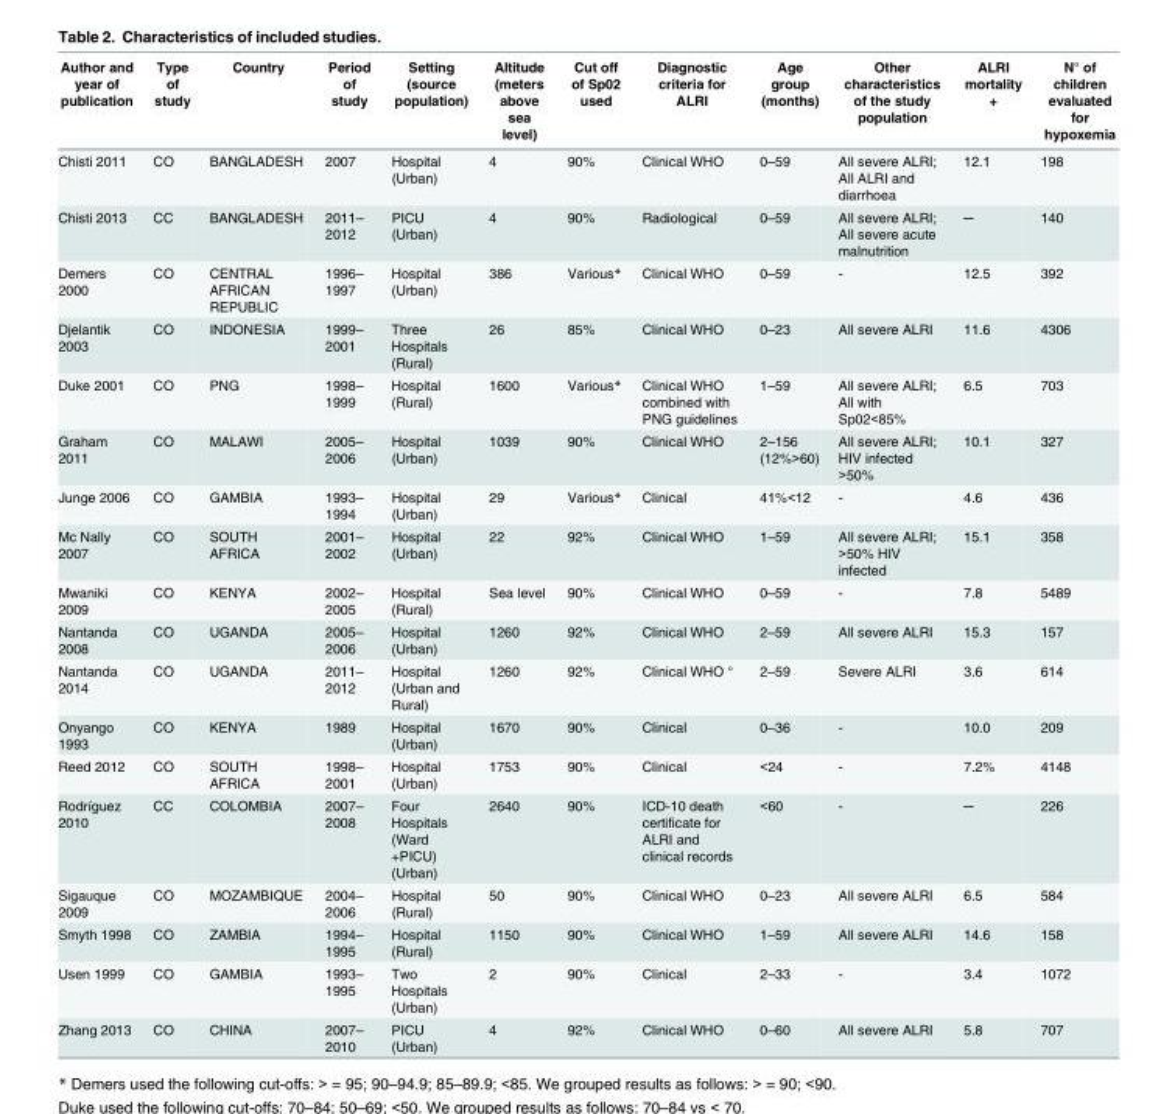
<table><thead><tr><td>Author and year of publication</td><td>Type of study</td><td>Country</td><td>Period of study</td><td>Setting (source population)</td><td>Altitude (meters above sea level)</td><td>Cut off of Sp02 used</td><td>Diagnostic criteria for ALRI</td><td>Age group (months)</td><td>Other characteristics of the study population</td><td>ALRI mortality +</td><td>N° of children evaluated for hypoxemia</td></tr></thead><tbody><tr><td>Chisti 2011</td><td>CO</td><td>BANGLADESH</td><td>2007</td><td>Hospital (Urban)</td><td>4</td><td>90%</td><td>Clinical WHO</td><td>0–59</td><td>All severe ALRI; All ALRI and diarrhoea</td><td>12.1</td><td>198</td></tr><tr><td>Chisti 2013</td><td>CC</td><td>BANGLADESH</td><td>2011– 2012</td><td>PICU (Urban)</td><td>4</td><td>90%</td><td>Radiological</td><td>0–59</td><td>All severe ALRI; All severe acute malnutrition</td><td>─</td><td>140</td></tr><tr><td>Demers 2000</td><td>CO</td><td>CENTRAL AFRICAN REPUBLIC</td><td>1996– 1997</td><td>Hospital (Urban)</td><td>386</td><td>Various*</td><td>Clinical WHO</td><td>0–59</td><td>-</td><td>12.5</td><td>392</td></tr><tr><td>Djelantik 2003</td><td>CO</td><td>INDONESIA</td><td>1999– 2001</td><td>Three Hospitals (Rural)</td><td>26</td><td>85%</td><td>Clinical WHO</td><td>0–23</td><td>All severe ALRI</td><td>11.6</td><td>4306</td></tr><tr><td>Duke 2001</td><td>CO</td><td>PNG</td><td>1998– 1999</td><td>Hospital (Rural)</td><td>1600</td><td>Various*</td><td>Clinical WHO combined with PNG guidelines</td><td>1–59</td><td>All severe ALRI; All with Sp02&lt;85%</td><td>6.5</td><td>703</td></tr><tr><td>Graham 2011</td><td>CO</td><td>MALAWI</td><td>2005– 2006</td><td>Hospital (Urban)</td><td>1039</td><td>90%</td><td>Clinical WHO</td><td>2–156 (12%&gt;60)</td><td>All severe ALRI; HIV infected &gt;50%</td><td>10.1</td><td>327</td></tr><tr><td>Junge 2006</td><td>CO</td><td>GAMBIA</td><td>1993– 1994</td><td>Hospital (Urban)</td><td>29</td><td>Various*</td><td>Clinical</td><td>41%&lt;12</td><td>-</td><td>4.6</td><td>436</td></tr><tr><td>Mc Nally 2007</td><td>CO</td><td>SOUTH AFRICA</td><td>2001– 2002</td><td>Hospital (Urban)</td><td>22</td><td>92%</td><td>Clinical WHO</td><td>1–59</td><td>All severe ALRI; &gt;50% HIV infected</td><td>15.1</td><td>358</td></tr><tr><td>Mwaniki 2009</td><td>CO</td><td>KENYA</td><td>2002– 2005</td><td>Hospital (Rural)</td><td>Sea level</td><td>90%</td><td>Clinical WHO</td><td>0–59</td><td>-</td><td>7.8</td><td>5489</td></tr><tr><td>Nantanda 2008</td><td>CO</td><td>UGANDA</td><td>2005– 2006</td><td>Hospital (Urban)</td><td>1260</td><td>92%</td><td>Clinical WHO</td><td>2–59</td><td>All severe ALRI</td><td>15.3</td><td>157</td></tr><tr><td>Nantanda 2014</td><td>CO</td><td>UGANDA</td><td>2011– 2012</td><td>Hospital (Urban and Rural)</td><td>1260</td><td>92%</td><td>Clinical WHO °</td><td>2–59</td><td>Severe ALRI</td><td>3.6</td><td>614</td></tr><tr><td>Onyango 1993</td><td>CO</td><td>KENYA</td><td>1989</td><td>Hospital (Urban)</td><td>1670</td><td>90%</td><td>Clinical</td><td>0–36</td><td>-</td><td>10.0</td><td>209</td></tr><tr><td>Reed 2012</td><td>CO</td><td>SOUTH AFRICA</td><td>1998– 2001</td><td>Hospital (Urban)</td><td>1753</td><td>90%</td><td>Clinical</td><td>&lt;24</td><td>-</td><td>7.2%</td><td>4148</td></tr><tr><td>Rodríguez 2010</td><td>CC</td><td>COLOMBIA</td><td>2007– 2008</td><td>Four Hospitals (Ward +PICU) (Urban)</td><td>2640</td><td>90%</td><td>ICD-10 death certificate for ALRI and clinical records</td><td>&lt;60</td><td>-</td><td>─</td><td>226</td></tr><tr><td>Sigauque 2009</td><td>CO</td><td>MOZAMBIQUE</td><td>2004– 2006</td><td>Hospital (Rural)</td><td>50</td><td>90%</td><td>Clinical WHO</td><td>0–23</td><td>All severe ALRI</td><td>6.5</td><td>584</td></tr><tr><td>Smyth 1998</td><td>CO</td><td>ZAMBIA</td><td>1994– 1995</td><td>Hospital (Rural)</td><td>1150</td><td>90%</td><td>Clinical WHO</td><td>1–59</td><td>All severe ALRI</td><td>14.6</td><td>158</td></tr><tr><td>Usen 1999</td><td>CO</td><td>GAMBIA</td><td>1993– 1995</td><td>Two Hospitals (Urban)</td><td>2</td><td>90%</td><td>Clinical</td><td>2–33</td><td>-</td><td>3.4</td><td>1072</td></tr><tr><td>Zhang 2013</td><td>CO</td><td>CHINA</td><td>2007– 2010</td><td>PICU (Urban)</td><td>4</td><td>92%</td><td>Clinical WHO</td><td>0–60</td><td>All severe ALRI</td><td>5.8</td><td>707</td></tr></tbody></table>